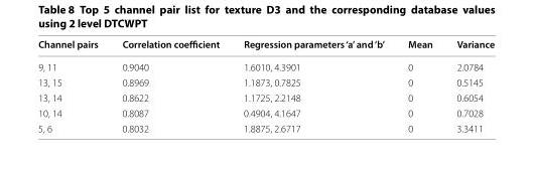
<table><thead><tr><td>Channel pairs</td><td>Correlation coefficient</td><td>Regression parameters ‘a’ and ‘b’</td><td>Mean</td><td>Variance</td></tr></thead><tbody><tr><td>9, 11</td><td>0.9040</td><td>1.6010, 4.3901</td><td>0</td><td>2.0784</td></tr><tr><td>13, 15</td><td>0.8969</td><td>1.1873, 0.7825</td><td>0</td><td>0.5145</td></tr><tr><td>13, 14</td><td>0.8622</td><td>1.1725, 2.2148</td><td>0</td><td>0.6054</td></tr><tr><td>10, 14</td><td>0.8087</td><td>0.4904, 4.1647</td><td>0</td><td>0.7028</td></tr><tr><td>5, 6</td><td>0.8032</td><td>1.8875, 2.6717</td><td>0</td><td>3.3411</td></tr></tbody></table>